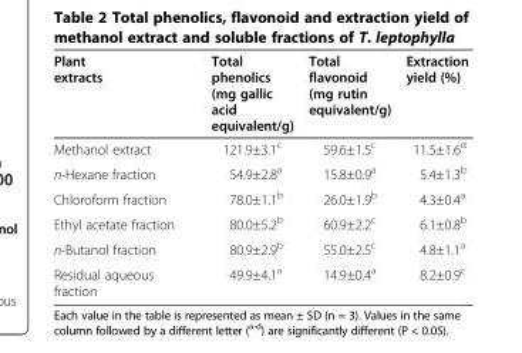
<table><thead><tr><td>Plant extracts</td><td>Total phenolics (mg gallic acid equivalent/g)</td><td>Total flavonoid (mg rutin equivalent/g)</td><td>Extraction yield (%)</td></tr></thead><tbody><tr><td>Methanol extract</td><td>121.9±3.1<sup>c</sup></td><td>59.6±1.5<sup>c</sup></td><td>11.5±1.6<sup>d</sup></td></tr><tr><td>n-Hexane fraction</td><td>54.9±2.8<sup>a</sup></td><td>15.8±0.9<sup>a</sup></td><td>5.4±1.3<sup>b</sup></td></tr><tr><td>Chloroform fraction</td><td>78.0±1.1<sup>b</sup></td><td>26.0±1.9<sup>b</sup></td><td>4.3±0.4<sup>a</sup></td></tr><tr><td>Ethyl acetate fraction</td><td>80.0±5.2<sup>b</sup></td><td>60.9±2.2<sup>c</sup></td><td>6.1±0.8<sup>b</sup></td></tr><tr><td>n-Butanol fraction</td><td>80.9±2.9<sup>b</sup></td><td>55.0±2.5<sup>c</sup></td><td>4.8±1.1<sup>a</sup></td></tr><tr><td>Residual aqueous fraction</td><td>49.9±4.1<sup>a</sup></td><td>14.9±0.4<sup>a</sup></td><td>8.2±0.9<sup>c</sup></td></tr></tbody></table>